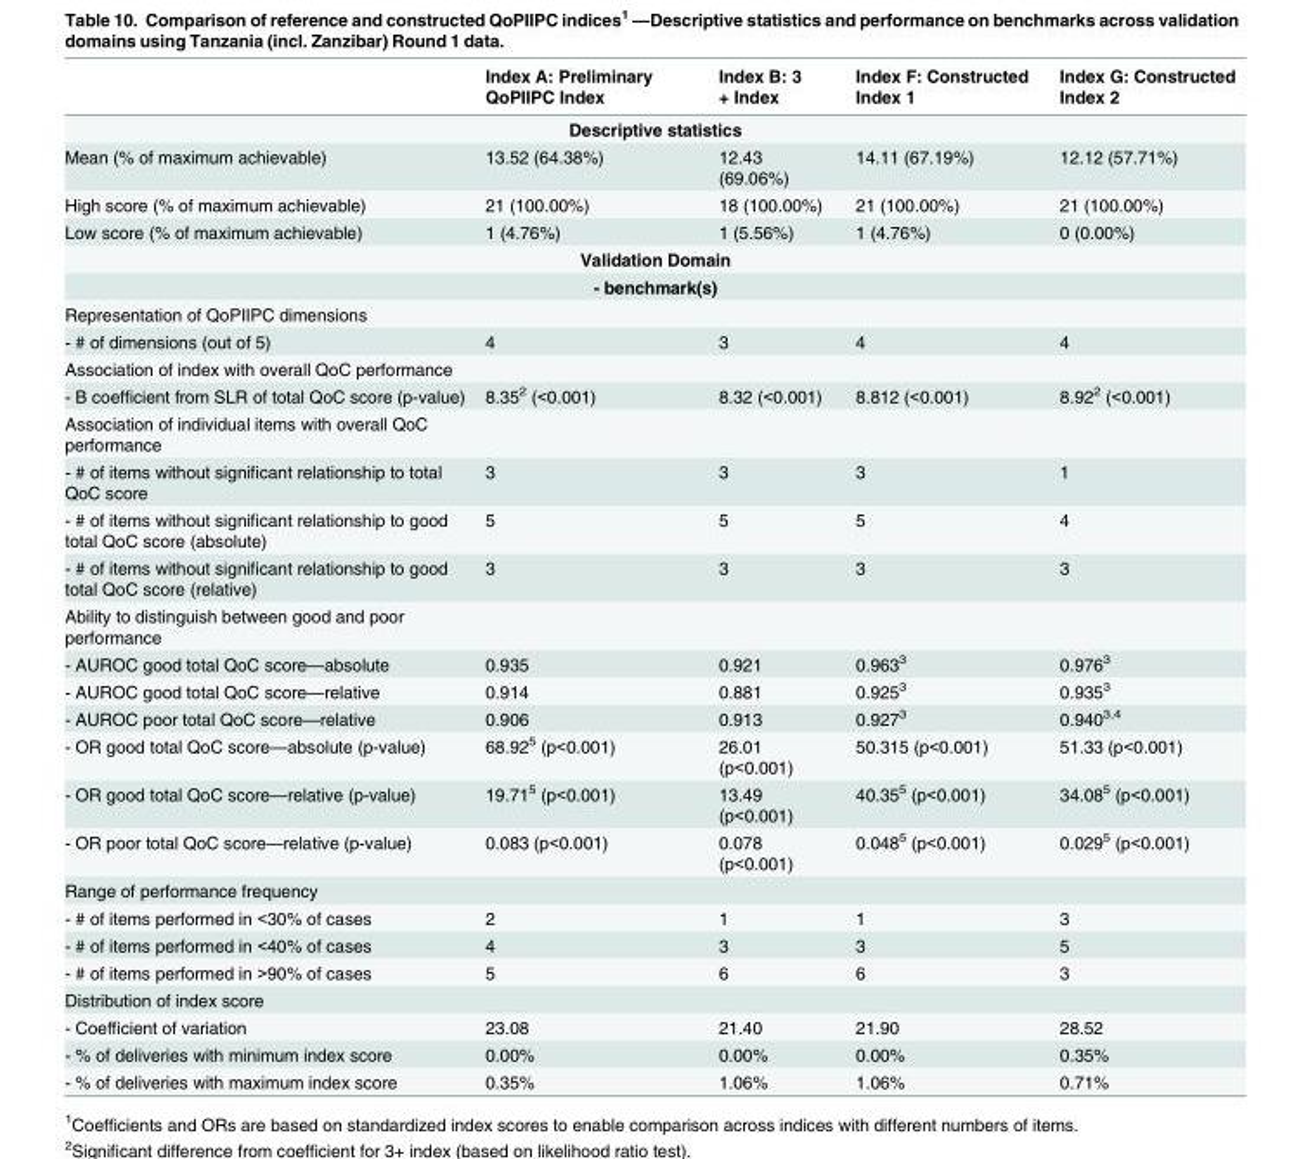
<table><thead><tr><td></td><td>Index A: Preliminary QoPIIPC Index</td><td>Index B: 3 + Index</td><td>Index F: Constructed Index 1</td><td>Index G: Constructed Index 2</td></tr></thead><tbody><tr><td colspan="5">Descriptive statistics</td></tr><tr><td>Mean (% of maximum achievable)</td><td>13.52 (64.38%)</td><td>12.43 (69.06%)</td><td>14.11 (67.19%)</td><td>12.12 (57.71%)</td></tr><tr><td>High score (% of maximum achievable)</td><td>21 (100.00%)</td><td>18 (100.00%)</td><td>21 (100.00%)</td><td>21 (100.00%)</td></tr><tr><td>Low score (% of maximum achievable)</td><td>1 (4.76%)</td><td>1 (5.56%)</td><td>1 (4.76%)</td><td>0 (0.00%)</td></tr><tr><td colspan="5">Validation Domain</td></tr><tr><td colspan="5">- benchmark(s)</td></tr><tr><td colspan="5">Representation of QoPIIPC dimensions</td></tr><tr><td>- # of dimensions (out of 5)</td><td>4</td><td>3</td><td>4</td><td>4</td></tr><tr><td colspan="5">Association of index with overall QoC performance</td></tr><tr><td>- B coefficient from SLR of total QoC score (p-value)</td><td>8.35<sup>2</sup> (&lt;0.001)</td><td>8.32 (&lt;0.001)</td><td>8.812 (&lt;0.001)</td><td>8.92<sup>2</sup> (&lt;0.001)</td></tr><tr><td colspan="5">Association of individual items with overall QoC performance</td></tr><tr><td>- # of items without significant relationship to total QoC score</td><td>3</td><td>3</td><td>3</td><td>1</td></tr><tr><td>- # of items without significant relationship to good total QoC score (absolute)</td><td>5</td><td>5</td><td>5</td><td>4</td></tr><tr><td>- # of items without significant relationship to good total QoC score (relative)</td><td>3</td><td>3</td><td>3</td><td>3</td></tr><tr><td colspan="5">Ability to distinguish between good and poor performance</td></tr><tr><td>- AUROC good total QoC score—absolute</td><td>0.935</td><td>0.921</td><td>0.963<sup>3</sup></td><td>0.976<sup>3</sup></td></tr><tr><td>- AUROC good total QoC score—relative</td><td>0.914</td><td>0.881</td><td>0.925<sup>3</sup></td><td>0.935<sup>3</sup></td></tr><tr><td>- AUROC poor total QoC score—relative</td><td>0.906</td><td>0.913</td><td>0.927<sup>3</sup></td><td>0.940<sup>3,4</sup></td></tr><tr><td>- OR good total QoC score—absolute (p-value)</td><td>68.92<sup>5</sup> (p&lt;0.001)</td><td>26.01 (p&lt;0.001)</td><td>50.315 (p&lt;0.001)</td><td>51.33 (p&lt;0.001)</td></tr><tr><td>- OR good total QoC score—relative (p-value)</td><td>19.71<sup>5</sup> (p&lt;0.001)</td><td>13.49 (p&lt;0.001)</td><td>40.35<sup>5</sup> (p&lt;0.001)</td><td>34.08<sup>5</sup> (p&lt;0.001)</td></tr><tr><td>- OR poor total QoC score—relative (p-value)</td><td>0.083 (p&lt;0.001)</td><td>0.078 (p&lt;0.001)</td><td>0.048<sup>5</sup> (p&lt;0.001)</td><td>0.029<sup>5</sup> (p&lt;0.001)</td></tr><tr><td colspan="5">Range of performance frequency</td></tr><tr><td>- # of items performed in &lt;30% of cases</td><td>2</td><td>1</td><td>1</td><td>3</td></tr><tr><td>- # of items performed in &lt;40% of cases</td><td>4</td><td>3</td><td>3</td><td>5</td></tr><tr><td>- # of items performed in &gt;90% of cases</td><td>5</td><td>6</td><td>6</td><td>3</td></tr><tr><td colspan="5">Distribution of index score</td></tr><tr><td>- Coefficient of variation</td><td>23.08</td><td>21.40</td><td>21.90</td><td>28.52</td></tr><tr><td>- % of deliveries with minimum index score</td><td>0.00%</td><td>0.00%</td><td>0.00%</td><td>0.35%</td></tr><tr><td>- % of deliveries with maximum index score</td><td>0.35%</td><td>1.06%</td><td>1.06%</td><td>0.71%</td></tr></tbody></table>